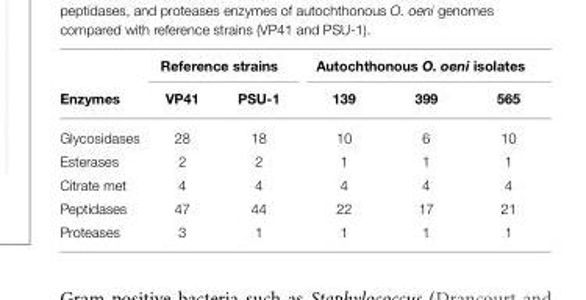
<table><thead><tr><td rowspan="2">Enzymes</td><td colspan="2">Reference strains</td><td colspan="3">Autochthonous O. oeni isolates</td></tr><tr><td>VP41</td><td>PSU-1</td><td>139</td><td>399</td><td>565</td></tr></thead><tbody><tr><td>Glycosidases</td><td>28</td><td>18</td><td>10</td><td>6</td><td>10</td></tr><tr><td>Esterases</td><td>2</td><td>2</td><td>1</td><td>1</td><td>1</td></tr><tr><td>Citrate met</td><td>4</td><td>4</td><td>4</td><td>4</td><td>4</td></tr><tr><td>Peptidases</td><td>47</td><td>44</td><td>22</td><td>17</td><td>21</td></tr><tr><td>Proteases</td><td>3</td><td>1</td><td>1</td><td>1</td><td>1</td></tr></tbody></table>